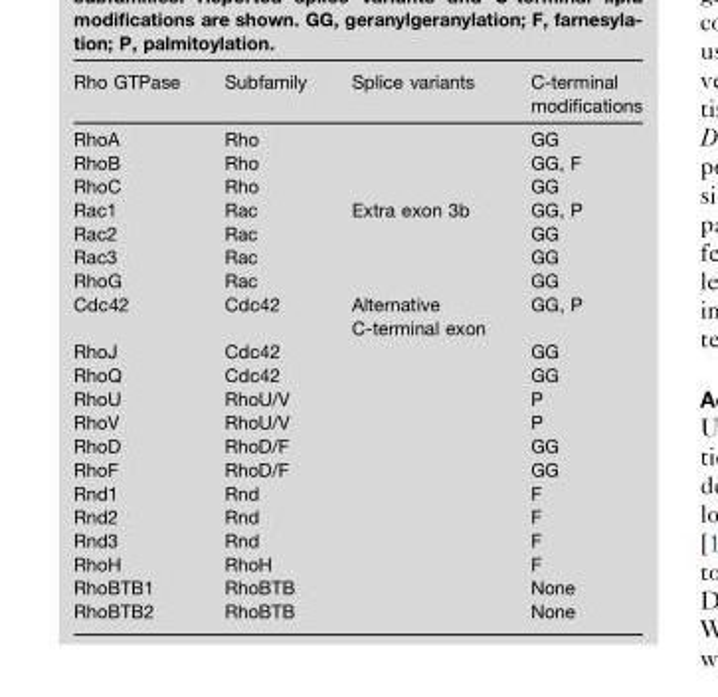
<table><thead><tr><td>Rho GTPase</td><td>Subfamily</td><td>Splice variants</td><td>C-terminal modifications</td></tr></thead><tbody><tr><td>RhoA</td><td>Rho</td><td></td><td>GG</td></tr><tr><td>RhoB</td><td>Rho</td><td></td><td>GG, F</td></tr><tr><td>RhoC</td><td>Rho</td><td></td><td>GG</td></tr><tr><td>Rac1</td><td>Rac</td><td>Extra exon 3b</td><td>GG, P</td></tr><tr><td>Rac2</td><td>Rac</td><td></td><td>GG</td></tr><tr><td>Rac3</td><td>Rac</td><td></td><td>GG</td></tr><tr><td>RhoG</td><td>Rac</td><td></td><td>GG</td></tr><tr><td>Cdc42</td><td>Cdc42</td><td>Alternative C-terminal exon</td><td>GG, P</td></tr><tr><td>RhoJ</td><td>Cdc42</td><td></td><td>GG</td></tr><tr><td>RhoQ</td><td>Cdc42</td><td></td><td>GG</td></tr><tr><td>RhoU</td><td>RhoU/V</td><td></td><td>P</td></tr><tr><td>RhoV</td><td>RhoU/V</td><td></td><td>P</td></tr><tr><td>RhoD</td><td>RhoD/F</td><td></td><td>GG</td></tr><tr><td>RhoF</td><td>RhoD/F</td><td></td><td>GG</td></tr><tr><td>Rnd1</td><td>Rnd</td><td></td><td>F</td></tr><tr><td>Rnd2</td><td>Rnd</td><td></td><td>F</td></tr><tr><td>Rnd3</td><td>Rnd</td><td></td><td>F</td></tr><tr><td>RhoH</td><td>RhoH</td><td></td><td>F</td></tr><tr><td>RhoBTB1</td><td>RhoBTB</td><td></td><td>None</td></tr><tr><td>RhoBTB2</td><td>RhoBTB</td><td></td><td>None</td></tr></tbody></table>